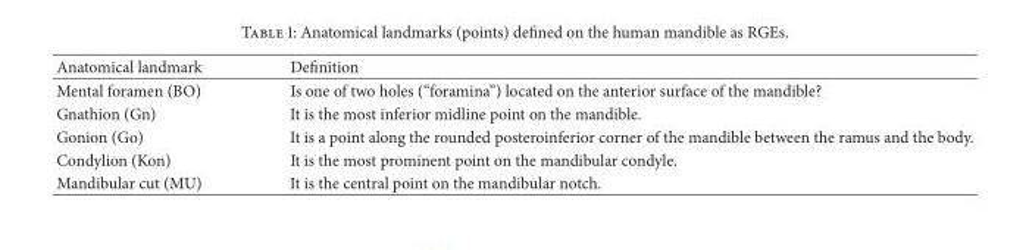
<table><thead><tr><td>Anatomical landmark</td><td>Definition</td></tr></thead><tbody><tr><td>Mental foramen (BO)</td><td>Is one of two holes (“foramina”) located on the anterior surface of the mandible?</td></tr><tr><td>Gnathion (Gn)</td><td>It is the most inferior midline point on the mandible.</td></tr><tr><td>Gonion (Go)</td><td>It is a point along the rounded posteroinferior corner of the mandible between the ramus and the body.</td></tr><tr><td>Condylion (Kon)</td><td>It is the most prominent point on the mandibular condyle.</td></tr><tr><td>Mandibular cut (MU)</td><td>It is the central point on the mandibular notch.</td></tr></tbody></table>